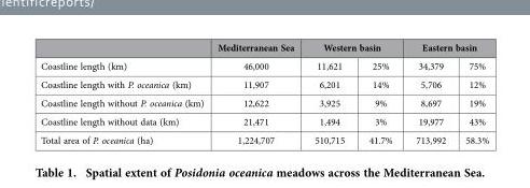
<table><thead><tr><td rowspan="2">Coastline length (km)</td><td rowspan="2">Mediterranean Sea 46,000</td><td colspan="2">Western basin</td><td colspan="2">Eastern basin</td></tr><tr><td>11,621</td><td>25%</td><td>34,379</td><td>75%</td></tr></thead><tbody><tr><td>Coastline length with P. oceanica (km)</td><td>11,907</td><td>6,201</td><td>14%</td><td>5,706</td><td>12%</td></tr><tr><td>Coastline length without P. oceanica (km)</td><td>12,622</td><td>3,925</td><td>9%</td><td>8,697</td><td>19%</td></tr><tr><td>Coastline length without data (km)</td><td>21,471</td><td>1,494</td><td>3%</td><td>19,977</td><td>43%</td></tr><tr><td>Total area of P. oceanica (ha)</td><td>1,224,707</td><td>510,715</td><td>41.7%</td><td>713,992</td><td>58.3%</td></tr></tbody></table>